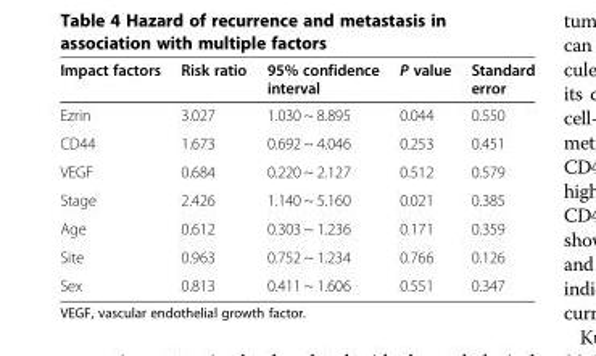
<table><thead><tr><td>Impact factors</td><td>Risk ratio</td><td>95% confidence interval</td><td>P value</td><td>Standard error</td></tr></thead><tbody><tr><td>Ezrin</td><td>3.027</td><td>1.030 ~ 8.895</td><td>0.044</td><td>0.550</td></tr><tr><td>CD44</td><td>1.673</td><td>0.692 ~ 4.046</td><td>0.253</td><td>0.451</td></tr><tr><td>VEGF</td><td>0.684</td><td>0.220 ~ 2.127</td><td>0.512</td><td>0.579</td></tr><tr><td>Stage</td><td>2.426</td><td>1.140 ~ 5.160</td><td>0.021</td><td>0.385</td></tr><tr><td>Age</td><td>0.612</td><td>0.303 ~ 1.236</td><td>0.171</td><td>0.359</td></tr><tr><td>Site</td><td>0.963</td><td>0.752 ~ 1.234</td><td>0.766</td><td>0.126</td></tr><tr><td>Sex</td><td>0.813</td><td>0.411 ~ 1.606</td><td>0.551</td><td>0.347</td></tr></tbody></table>